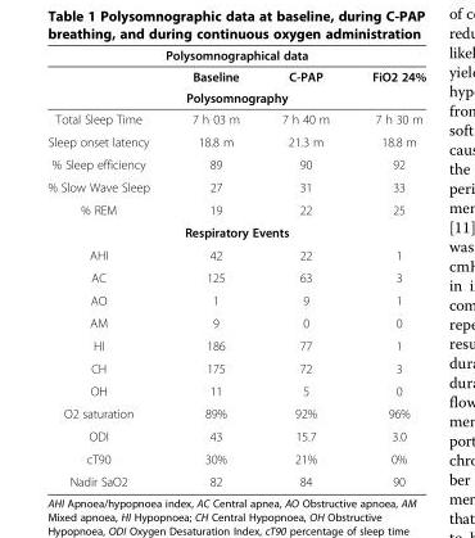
<table><thead><tr><td colspan="4">Polysomnographical data</td></tr><tr><td></td><td>Baseline</td><td>C-PAP</td><td>FiO2 24%</td></tr><tr><td colspan="4">Polysomnography</td></tr></thead><tbody><tr><td>Total Sleep Time</td><td>7 h 03 m</td><td>7 h 40 m</td><td>7 h 30 m</td></tr><tr><td>Sleep onset latency</td><td>18.8 m</td><td>21.3 m</td><td>18.8 m</td></tr><tr><td>% Sleep efficiency</td><td>89</td><td>90</td><td>92</td></tr><tr><td>% Slow Wave Sleep</td><td>27</td><td>31</td><td>33</td></tr><tr><td>% REM</td><td>19</td><td>22</td><td>25</td></tr><tr><td colspan="4">Respiratory Events</td></tr><tr><td>AHI</td><td>42</td><td>22</td><td>1</td></tr><tr><td>AC</td><td>125</td><td>63</td><td>3</td></tr><tr><td>AO</td><td>1</td><td>9</td><td>1</td></tr><tr><td>AM</td><td>9</td><td>0</td><td>0</td></tr><tr><td>HI</td><td>186</td><td>77</td><td>1</td></tr><tr><td>CH</td><td>175</td><td>72</td><td>3</td></tr><tr><td>OH</td><td>11</td><td>5</td><td>0</td></tr><tr><td>O2 saturation</td><td>89%</td><td>92%</td><td>96%</td></tr><tr><td>ODI</td><td>43</td><td>15.7</td><td>3.0</td></tr><tr><td>cT90</td><td>30%</td><td>21%</td><td>0%</td></tr><tr><td>Nadir SaO2</td><td>82</td><td>84</td><td>90</td></tr></tbody></table>